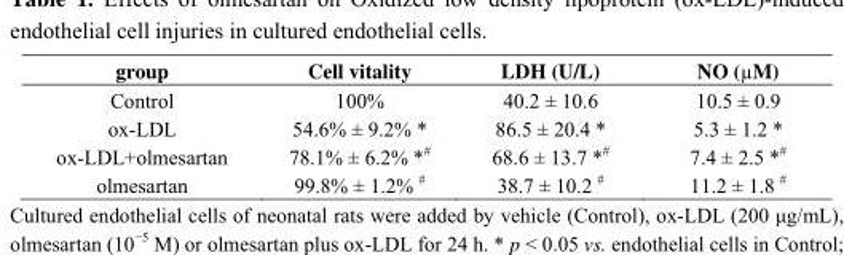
<table><thead><tr><td>group</td><td>Cell vitality</td><td>LDH (U/L)</td><td>NO (µM)</td></tr></thead><tbody><tr><td>Control</td><td>100%</td><td>40.2 ± 10.6</td><td>10.5 ± 0.9</td></tr><tr><td>ox-LDL</td><td>54.6% ± 9.2% *</td><td>86.5 ± 20.4 *</td><td>5.3 ± 1.2 *</td></tr><tr><td>ox-LDL+olmesartan</td><td>78.1% ± 6.2% *#</td><td>68.6 ± 13.7 *#</td><td>7.4 ± 2.5 *#</td></tr><tr><td>olmesartan</td><td>99.8% ± 1.2% #</td><td>38.7 ± 10.2 #</td><td>11.2 ± 1.8 #</td></tr></tbody></table>